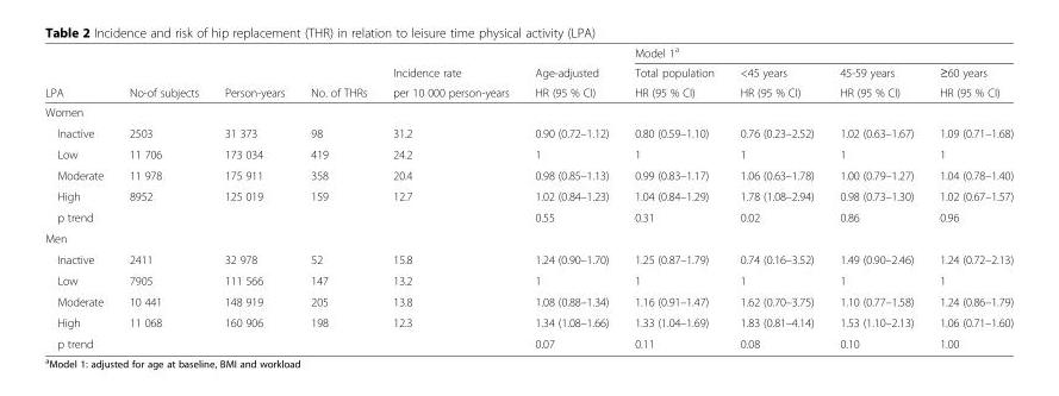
<table><thead><tr><td rowspan="3">LPA</td><td rowspan="3">No-of subjects</td><td rowspan="3">Person-years</td><td rowspan="3">No. of THRs</td><td rowspan="3">Incidence rate per 10 000 person-years</td><td rowspan="3">Age-adjusted HR (95 % CI)</td><td colspan="4">Model 1<sup>a</sup></td></tr><tr><td rowspan="2">Total population HR (95 % CI)</td><td rowspan="2">&lt;45 years HR (95 % CI)</td><td rowspan="2">45-59 years HR (95 % CI)</td><td rowspan="2">≥60 years HR (95 % CI)</td></tr><tr></tr></thead><tbody><tr><td colspan="10">Women</td></tr><tr><td>Inactive</td><td>2503</td><td>31 373</td><td>98</td><td>31.2</td><td>0.90 (0.72–1.12)</td><td>0.80 (0.59–1.10)</td><td>0.76 (0.23–2.52)</td><td>1.02 (0.63–1.67)</td><td>1.09 (0.71–1.68)</td></tr><tr><td>Low</td><td>11 706</td><td>173 034</td><td>419</td><td>24.2</td><td>1</td><td>1</td><td>1</td><td>1</td><td>1</td></tr><tr><td>Moderate</td><td>11 978</td><td>175 911</td><td>358</td><td>20.4</td><td>0.98 (0.85–1.13)</td><td>0.99 (0.83–1.17)</td><td>1.06 (0.63–1.78)</td><td>1.00 (0.79–1.27)</td><td>1.04 (0.78–1.40)</td></tr><tr><td>High</td><td>8952</td><td>125 019</td><td>159</td><td>12.7</td><td>1.02 (0.84–1.23)</td><td>1.04 (0.84–1.29)</td><td>1.78 (1.08–2.94)</td><td>0.98 (0.73–1.30)</td><td>1.02 (0.67–1.57)</td></tr><tr><td>p trend</td><td></td><td></td><td></td><td></td><td>0.55</td><td>0.31</td><td>0.02</td><td>0.86</td><td>0.96</td></tr><tr><td colspan="10">Men</td></tr><tr><td>Inactive</td><td>2411</td><td>32 978</td><td>52</td><td>15.8</td><td>1.24 (0.90–1.70)</td><td>1.25 (0.87–1.79)</td><td>0.74 (0.16–3.52)</td><td>1.49 (0.90–2.46)</td><td>1.24 (0.72–2.13)</td></tr><tr><td>Low</td><td>7905</td><td>111 566</td><td>147</td><td>13.2</td><td>1</td><td>1</td><td>1</td><td>1</td><td>1</td></tr><tr><td>Moderate</td><td>10 441</td><td>148 919</td><td>205</td><td>13.8</td><td>1.08 (0.88–1.34)</td><td>1.16 (0.91–1.47)</td><td>1.62 (0.70–3.75)</td><td>1.10 (0.77–1.58)</td><td>1.24 (0.86–1.79)</td></tr><tr><td>High</td><td>11 068</td><td>160 906</td><td>198</td><td>12.3</td><td>1.34 (1.08–1.66)</td><td>1.33 (1.04–1.69)</td><td>1.83 (0.81–4.14)</td><td>1.53 (1.10–2.13)</td><td>1.06 (0.71–1.60)</td></tr><tr><td>p trend</td><td></td><td></td><td></td><td></td><td>0.07</td><td>0.11</td><td>0.08</td><td>0.10</td><td>1.00</td></tr></tbody></table>